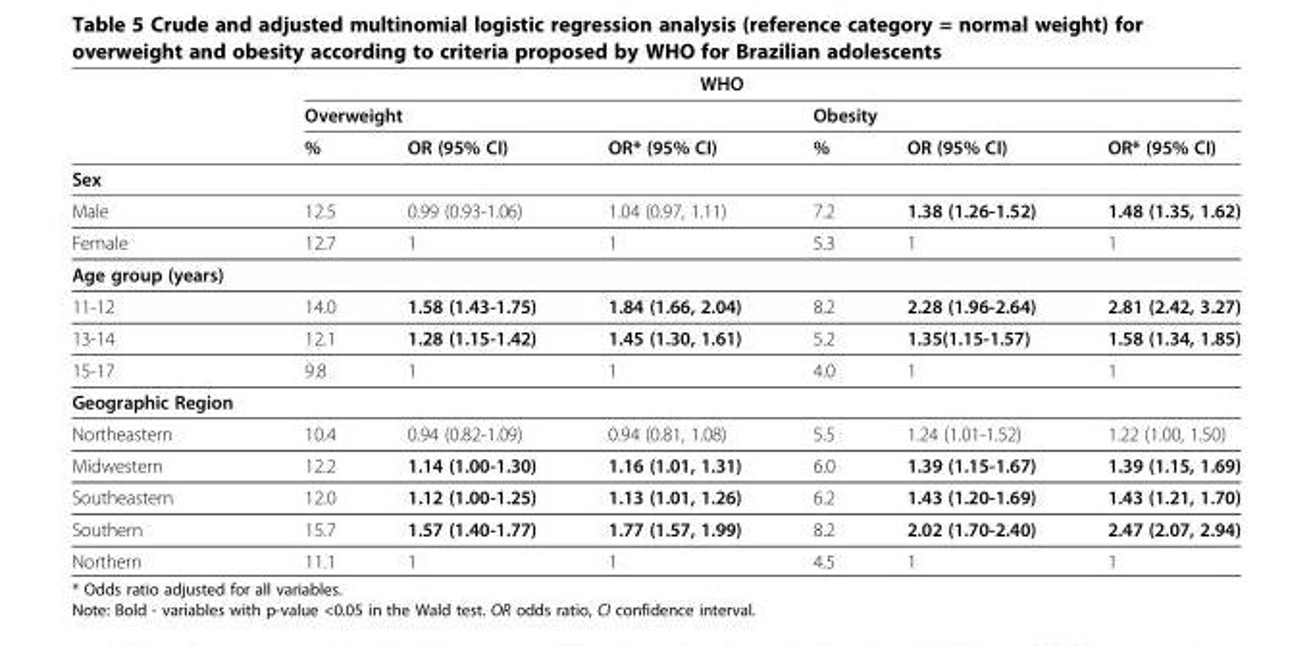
<table><thead><tr><td rowspan="3"></td><td></td><td colspan="4">WHO</td><td></td></tr><tr><td colspan="3">Overweight</td><td colspan="3">Obesity</td></tr><tr><td>%</td><td>OR (95% CI)</td><td>OR* (95% CI)</td><td>%</td><td>OR (95% CI)</td><td>OR* (95% CI)</td></tr></thead><tbody><tr><td colspan="7">Sex</td></tr><tr><td>Male</td><td>12.5</td><td>0.99 (0.93-1.06)</td><td>1.04 (0.97, 1.11)</td><td>7.2</td><td>1.38 (1.26-1.52)</td><td>1.48 (1.35, 1.62)</td></tr><tr><td>Female</td><td>12.7</td><td>1</td><td>1</td><td>5.3</td><td>1</td><td>1</td></tr><tr><td colspan="7">Age group (years)</td></tr><tr><td>11-12</td><td>14.0</td><td>1.58 (1.43-1.75)</td><td>1.84 (1.66, 2.04)</td><td>8.2</td><td>2.28 (1.96-2.64)</td><td>2.81 (2.42, 3.27)</td></tr><tr><td>13-14</td><td>12.1</td><td>1.28 (1.15-1.42)</td><td>1.45 (1.30, 1.61)</td><td>5.2</td><td>1.35(1.15-1.57)</td><td>1.58 (1.34, 1.85)</td></tr><tr><td>15-17</td><td>9.8</td><td>1</td><td>1</td><td>4.0</td><td>1</td><td>1</td></tr><tr><td colspan="7">Geographic Region</td></tr><tr><td>Northeastern</td><td>10.4</td><td>0.94 (0.82-1.09)</td><td>0.94 (0.81, 1.08)</td><td>5.5</td><td>1.24 (1.01-1.52)</td><td>1.22 (1.00, 1.50)</td></tr><tr><td>Midwestern</td><td>12.2</td><td>1.14 (1.00-1.30)</td><td>1.16 (1.01, 1.31)</td><td>6.0</td><td>1.39 (1.15-1.67)</td><td>1.39 (1.15, 1.69)</td></tr><tr><td>Southeastern</td><td>12.0</td><td>1.12 (1.00-1.25)</td><td>1.13 (1.01, 1.26)</td><td>6.2</td><td>1.43 (1.20-1.69)</td><td>1.43 (1.21, 1.70)</td></tr><tr><td>Southern</td><td>15.7</td><td>1.57 (1.40-1.77)</td><td>1.77 (1.57, 1.99)</td><td>8.2</td><td>2.02 (1.70-2.40)</td><td>2.47 (2.07, 2.94)</td></tr><tr><td>Northern</td><td>11.1</td><td>1</td><td>1</td><td>4.5</td><td>1</td><td>1</td></tr></tbody></table>